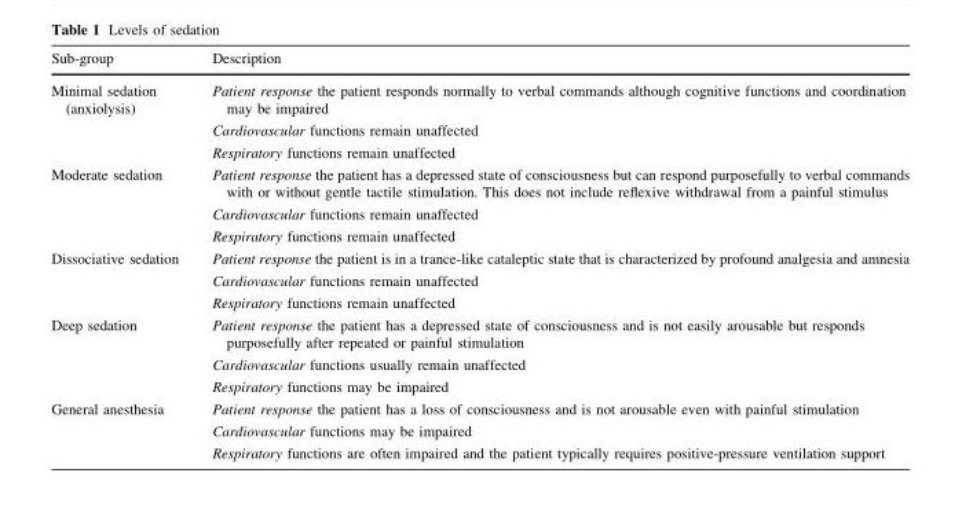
<table><thead><tr><td>Sub-group</td><td>Description</td></tr></thead><tbody><tr><td>Minimal sedation (anxiolysis)</td><td>Patient response the patient responds normally to verbal commands although cognitive functions and coordination may be impaired Cardiovascular functions remain unaffected Respiratory functions remain unaffected</td></tr><tr><td>Moderate sedation</td><td>Patient response the patient has a depressed state of consciousness but can respond purposefully to verbal commands with or without gentle tactile stimulation. This does not include reflexive withdrawal from a painful stimulus Cardiovascular functions remain unaffected Respiratory functions remain unaffected</td></tr><tr><td>Dissociative sedation</td><td>Patient response the patient is in a trance-like cataleptic state that is characterized by profound analgesia and amnesia Cardiovascular functions remain unaffected Respiratory functions remain unaffected</td></tr><tr><td>Deep sedation</td><td>Patient response the patient has a depressed state of consciousness and is not easily arousable but responds purposefully after repeated or painful stimulation Cardiovascular functions usually remain unaffected Respiratory functions may be impaired</td></tr><tr><td>General anesthesia</td><td>Patient response the patient has a loss of consciousness and is not arousable even with painful stimulation Cardiovascular functions may be impaired Respiratory functions are often impaired and the patient typically requires positive-pressure ventilation support</td></tr></tbody></table>